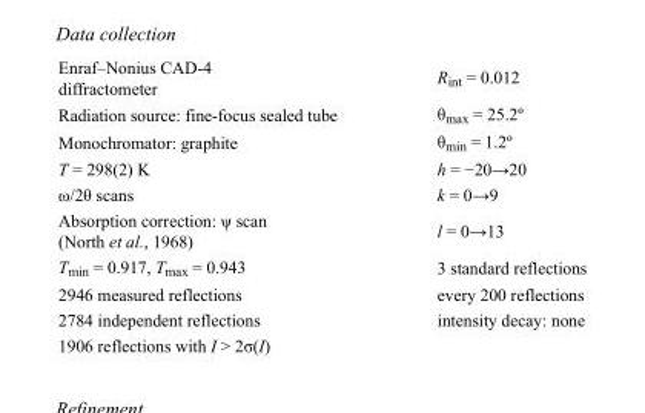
<table><tbody><tr><td>Enraf–Nonius CAD-4 diffractometer</td><td>R<sub>int</sub> = 0.012</td></tr><tr><td>Radiation source: fine-focus sealed tube</td><td>θ<sub>max</sub> = 25.2º</td></tr><tr><td>Monochromator: graphite</td><td>θ<sub>min</sub> = 1.2º</td></tr><tr><td>T = 298(2) K</td><td>h = −20→20</td></tr><tr><td>ω/2θ scans</td><td>k = 0→9</td></tr><tr><td>Absorption correction: ψ scan (North et al., 1968)</td><td>l = 0→13</td></tr><tr><td>T<sub>min</sub> = 0.917, T<sub>max</sub> = 0.943</td><td>3 standard reflections</td></tr><tr><td>2946 measured reflections</td><td>every 200 reflections</td></tr><tr><td>2784 independent reflections</td><td>intensity decay: none</td></tr><tr><td>1906 reflections with I &gt; 2σ(I)</td><td></td></tr></tbody></table>